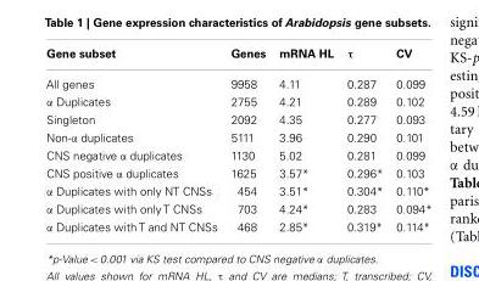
<table><thead><tr><td>Gene subset</td><td>Genes</td><td>mRNA HL</td><td>τ</td><td>CV</td></tr></thead><tbody><tr><td>All genes</td><td>9958</td><td>4.11</td><td>0.287</td><td>0.099</td></tr><tr><td>α Duplicates</td><td>2755</td><td>4.21</td><td>0.289</td><td>0.102</td></tr><tr><td>Singleton</td><td>2092</td><td>4.35</td><td>0.277</td><td>0.093</td></tr><tr><td>Non-α duplicates</td><td>5111</td><td>3.96</td><td>0.290</td><td>0.101</td></tr><tr><td>CNS negative α duplicates</td><td>1130</td><td>5.02</td><td>0.281</td><td>0.099</td></tr><tr><td>CNS positive α duplicates</td><td>1625</td><td>3.57*</td><td>0.296*</td><td>0.103</td></tr><tr><td>α Duplicates with only NT CNSs</td><td>454</td><td>3.51*</td><td>0.304*</td><td>0.110*</td></tr><tr><td>α Duplicates with only T CNSs</td><td>703</td><td>4.24*</td><td>0.283</td><td>0.094*</td></tr><tr><td>α Duplicates with T and NT CNSs</td><td>468</td><td>2.85*</td><td>0.319*</td><td>0.114*</td></tr></tbody></table>